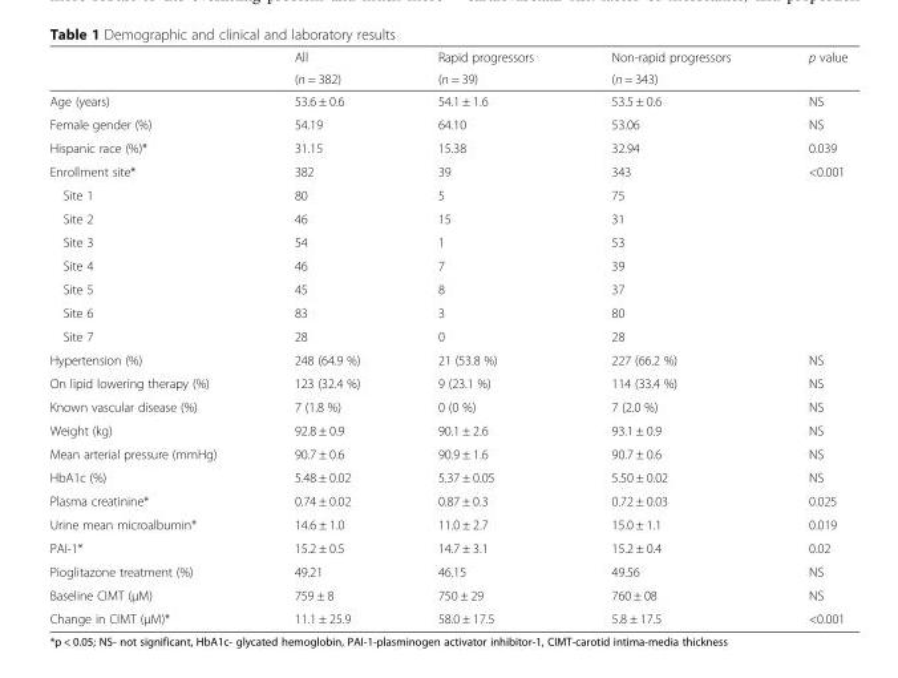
<table><thead><tr><td rowspan="2"></td><td rowspan="2">All (n = 382)</td><td rowspan="2">Rapid progressors (n = 39)</td><td rowspan="2">Non-rapid progressors (n = 343)</td><td rowspan="2">p value</td></tr><tr></tr></thead><tbody><tr><td>Age (years)</td><td>53.6 ± 0.6</td><td>54.1 ± 1.6</td><td>53.5 ± 0.6</td><td>NS</td></tr><tr><td>Female gender (%)</td><td>54.19</td><td>64.10</td><td>53.06</td><td>NS</td></tr><tr><td>Hispanic race (%)*</td><td>31.15</td><td>15.38</td><td>32.94</td><td>0.039</td></tr><tr><td>Enrollment site*</td><td>382</td><td>39</td><td>343</td><td rowspan="8">&lt;0.001</td></tr><tr><td>Site 1</td><td>80</td><td>5</td><td>75</td></tr><tr><td>Site 2</td><td>46</td><td>15</td><td>31</td></tr><tr><td>Site 3</td><td>54</td><td>1</td><td>53</td></tr><tr><td>Site 4</td><td>46</td><td>7</td><td>39</td></tr><tr><td>Site 5</td><td>45</td><td>8</td><td>37</td></tr><tr><td>Site 6</td><td>83</td><td>3</td><td>80</td></tr><tr><td>Site 7</td><td>28</td><td>0</td><td>28</td></tr><tr><td>Hypertension (%)</td><td>248 (64.9 %)</td><td>21 (53.8 %)</td><td>227 (66.2 %)</td><td>NS</td></tr><tr><td>On lipid lowering therapy (%)</td><td>123 (32.4 %)</td><td>9 (23.1 %)</td><td>114 (33.4 %)</td><td>NS</td></tr><tr><td>Known vascular disease (%)</td><td>7 (1.8 %)</td><td>0 (0 %)</td><td>7 (2.0 %)</td><td>NS</td></tr><tr><td>Weight (kg)</td><td>92.8 ± 0.9</td><td>90.1 ± 2.6</td><td>93.1 ± 0.9</td><td>NS</td></tr><tr><td>Mean arterial pressure (mmHg)</td><td>90.7 ± 0.6</td><td>90.9 ± 1.6</td><td>90.7 ± 0.6</td><td>NS</td></tr><tr><td>HbA1c (%)</td><td>5.48 ± 0.02</td><td>5.37 ± 0.05</td><td>5.50 ± 0.02</td><td>NS</td></tr><tr><td>Plasma creatinine*</td><td>0.74 ± 0.02</td><td>0.87 ± 0.3</td><td>0.72 ± 0.03</td><td>0.025</td></tr><tr><td>Urine mean microalbumin*</td><td>14.6 ± 1.0</td><td>11.0 ± 2.7</td><td>15.0 ± 1.1</td><td>0.019</td></tr><tr><td>PAI-1*</td><td>15.2 ± 0.5</td><td>14.7 ± 3.1</td><td>15.2 ± 0.4</td><td>0.02</td></tr><tr><td>Pioglitazone treatment (%)</td><td>49.21</td><td>46.15</td><td>49.56</td><td>NS</td></tr><tr><td>Baseline CIMT (μM)</td><td>759 ± 8</td><td>750 ± 29</td><td>760 ± 08</td><td>NS</td></tr><tr><td>Change in CIMT (μM)*</td><td>11.1 ± 25.9</td><td>58.0 ± 17.5</td><td>5.8 ± 17.5</td><td>&lt;0.001</td></tr></tbody></table>